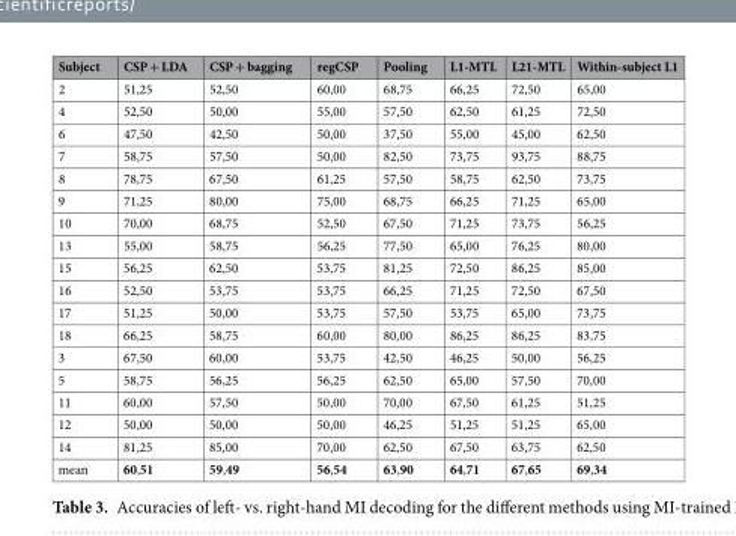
<table><thead><tr><td>Subject</td><td>CSP + LDA</td><td>CSP + bagging</td><td>regCSP</td><td>Pooling</td><td>L1-MTL</td><td>L21-MTL</td><td>Within-subject L1</td></tr></thead><tbody><tr><td>2</td><td>51,25</td><td>52,50</td><td>60,00</td><td>68,75</td><td>66,25</td><td>72,50</td><td>65,00</td></tr><tr><td>4</td><td>52,50</td><td>50,00</td><td>55,00</td><td>57,50</td><td>62,50</td><td>61,25</td><td>72,50</td></tr><tr><td>6</td><td>47,50</td><td>42,50</td><td>50,00</td><td>37,50</td><td>55,00</td><td>45,00</td><td>62,50</td></tr><tr><td>7</td><td>58,75</td><td>57,50</td><td>50,00</td><td>82,50</td><td>73,75</td><td>93,75</td><td>88,75</td></tr><tr><td>8</td><td>78,75</td><td>67,50</td><td>61,25</td><td>57,50</td><td>58,75</td><td>62,50</td><td>73,75</td></tr><tr><td>9</td><td>71,25</td><td>80,00</td><td>75,00</td><td>68,75</td><td>66,25</td><td>71,25</td><td>65,00</td></tr><tr><td>10</td><td>70,00</td><td>68,75</td><td>52,50</td><td>67,50</td><td>71,25</td><td>73,75</td><td>56,25</td></tr><tr><td>13</td><td>55,00</td><td>58,75</td><td>56,25</td><td>77,50</td><td>65,00</td><td>76,25</td><td>80,00</td></tr><tr><td>15</td><td>56,25</td><td>62,50</td><td>53,75</td><td>81,25</td><td>72,50</td><td>86,25</td><td>85,00</td></tr><tr><td>16</td><td>52,50</td><td>53,75</td><td>53,75</td><td>66,25</td><td>71,25</td><td>72,50</td><td>67,50</td></tr><tr><td>17</td><td>51,25</td><td>50,00</td><td>53,75</td><td>57,50</td><td>53,75</td><td>65,00</td><td>73,75</td></tr><tr><td>18</td><td>66,25</td><td>58,75</td><td>60,00</td><td>80,00</td><td>86,25</td><td>86,25</td><td>83,75</td></tr><tr><td>3</td><td>67,50</td><td>60,00</td><td>53,75</td><td>42,50</td><td>46,25</td><td>50,00</td><td>56,25</td></tr><tr><td>5</td><td>58,75</td><td>56,25</td><td>56,25</td><td>62,50</td><td>65,00</td><td>57,50</td><td>70,00</td></tr><tr><td>11</td><td>60,00</td><td>57,50</td><td>50,00</td><td>70,00</td><td>67,50</td><td>61,25</td><td>51,25</td></tr><tr><td>12</td><td>50,00</td><td>50,00</td><td>50,00</td><td>46,25</td><td>51,25</td><td>51,25</td><td>65,00</td></tr><tr><td>14</td><td>81,25</td><td>85,00</td><td>70,00</td><td>62,50</td><td>67,50</td><td>63,75</td><td>62,50</td></tr><tr><td>mean</td><td>60,51</td><td>59,49</td><td>56,54</td><td>63,90</td><td>64,71</td><td>67,65</td><td>69,34</td></tr></tbody></table>